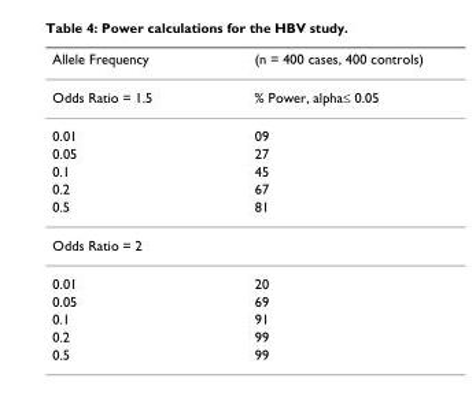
<table><thead><tr><td>Allele Frequency</td><td>(n = 400 cases, 400 controls)</td></tr></thead><tbody><tr><td>Odds Ratio = 1.5</td><td>% Power, alpha≤ 0.05</td></tr><tr><td>0.01</td><td>09</td></tr><tr><td>0.05</td><td>27</td></tr><tr><td>0.1</td><td>45</td></tr><tr><td>0.2</td><td>67</td></tr><tr><td>0.5</td><td>81</td></tr><tr><td colspan="2">Odds Ratio = 2</td></tr><tr><td>0.01</td><td>20</td></tr><tr><td>0.05</td><td>69</td></tr><tr><td>0.1</td><td>91</td></tr><tr><td>0.2</td><td>99</td></tr><tr><td>0.5</td><td>99</td></tr></tbody></table>